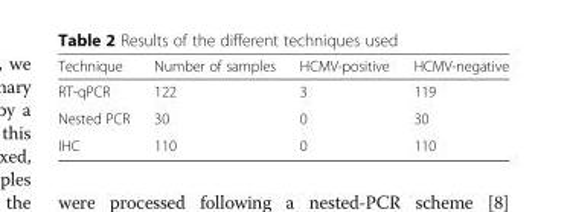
<table><thead><tr><td>Technique</td><td>Number of samples</td><td>HCMV-positive</td><td>HCMV-negative</td></tr></thead><tbody><tr><td>RT-qPCR</td><td>122</td><td>3</td><td>119</td></tr><tr><td>Nested PCR</td><td>30</td><td>0</td><td>30</td></tr><tr><td>IHC</td><td>110</td><td>0</td><td>110</td></tr></tbody></table>